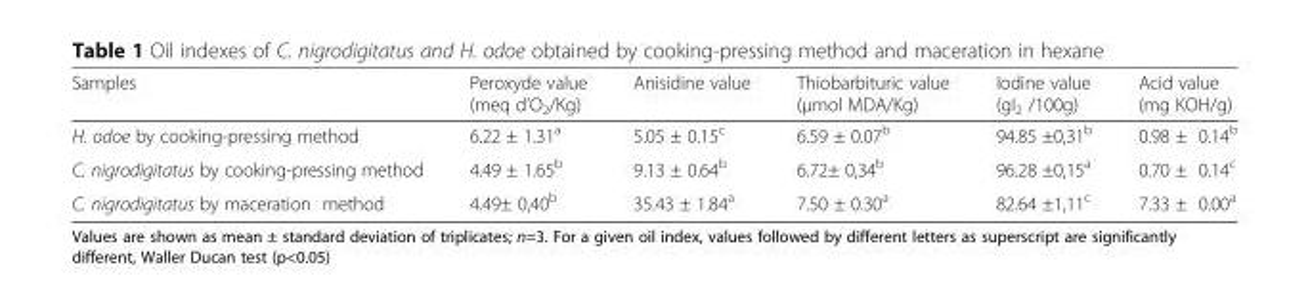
<table><thead><tr><td>Samples</td><td>Peroxyde value (meq d’O<sub>2</sub>/Kg)</td><td>Anisidine value</td><td>Thiobarbituric value (μmol MDA/Kg)</td><td>Iodine value (gI<sub>2</sub> /100g)</td><td>Acid value (mg KOH/g)</td></tr></thead><tbody><tr><td>H. odoe by cooking-pressing method</td><td>6.22 ± 1.31<sup>a</sup></td><td>5.05 ± 0.15<sup>c</sup></td><td>6.59 ± 0.07<sup>b</sup></td><td>94.85 ±0,31<sup>b</sup></td><td>0.98 ± 0.14<sup>b</sup></td></tr><tr><td>C. nigrodigitatus by cooking-pressing method</td><td>4.49 ± 1.65<sup>b</sup></td><td>9.13 ± 0.64<sup>b</sup></td><td>6.72± 0,34<sup>b</sup></td><td>96.28 ±0,15<sup>a</sup></td><td>0.70 ± 0.14<sup>c</sup></td></tr><tr><td>C. nigrodigitatus by maceration method</td><td>4.49± 0,40<sup>b</sup></td><td>35.43 ± 1.84<sup>a</sup></td><td>7.50 ± 0.30<sup>a</sup></td><td>82.64 ±1,11<sup>c</sup></td><td>7.33 ± 0.00<sup>a</sup></td></tr></tbody></table>